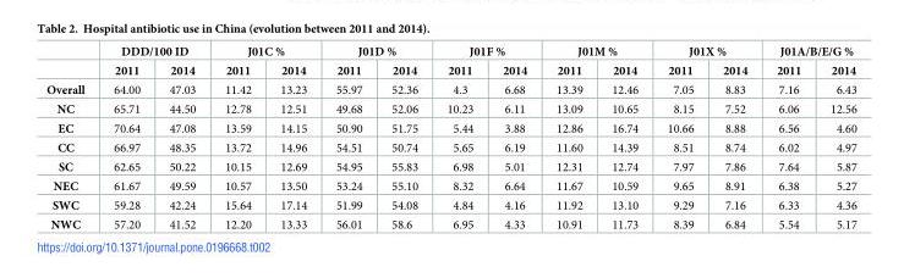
<table><thead><tr><td rowspan="2"></td><td colspan="2">DDD/100 ID</td><td colspan="2">J01C %</td><td colspan="2">J01D %</td><td colspan="2">J01F %</td><td colspan="2">J01M %</td><td colspan="2">J01X %</td><td colspan="2">J01A/B/E/G %</td></tr><tr><td>2011</td><td>2014</td><td>2011</td><td>2014</td><td>2011</td><td>2014</td><td>2011</td><td>2014</td><td>2011</td><td>2014</td><td>2011</td><td>2014</td><td>2011</td><td>2014</td></tr></thead><tbody><tr><td>Overall</td><td>64.00</td><td>47.03</td><td>11.42</td><td>13.23</td><td>55.97</td><td>52.36</td><td>4.3</td><td>6.68</td><td>13.39</td><td>12.46</td><td>7.05</td><td>8.83</td><td>7.16</td><td>6.43</td></tr><tr><td>NC</td><td>65.71</td><td>44.50</td><td>12.78</td><td>12.51</td><td>49.68</td><td>52.06</td><td>10.23</td><td>6.11</td><td>13.09</td><td>10.65</td><td>8.15</td><td>7.52</td><td>6.06</td><td>12.56</td></tr><tr><td>EC</td><td>70.64</td><td>47.08</td><td>13.59</td><td>14.15</td><td>50.90</td><td>51.75</td><td>5.44</td><td>3.88</td><td>12.86</td><td>16.74</td><td>10.66</td><td>8.88</td><td>6.56</td><td>4.60</td></tr><tr><td>CC</td><td>66.97</td><td>48.35</td><td>13.72</td><td>14.96</td><td>54.51</td><td>50.74</td><td>5.65</td><td>6.19</td><td>11.60</td><td>14.39</td><td>8.51</td><td>8.74</td><td>6.02</td><td>4.97</td></tr><tr><td>SC</td><td>62.65</td><td>50.22</td><td>10.15</td><td>12.69</td><td>54.95</td><td>55.83</td><td>6.98</td><td>5.01</td><td>12.31</td><td>12.74</td><td>7.97</td><td>7.86</td><td>7.64</td><td>5.87</td></tr><tr><td>NEC</td><td>61.67</td><td>49.59</td><td>10.57</td><td>13.50</td><td>53.24</td><td>55.10</td><td>8.32</td><td>6.64</td><td>11.67</td><td>10.59</td><td>9.65</td><td>8.91</td><td>6.38</td><td>5.27</td></tr><tr><td>SWC</td><td>59.28</td><td>42.24</td><td>15.64</td><td>17.14</td><td>51.99</td><td>54.08</td><td>4.84</td><td>4.16</td><td>11.92</td><td>13.10</td><td>9.29</td><td>7.16</td><td>6.33</td><td>4.36</td></tr><tr><td>NWC</td><td>57.20</td><td>41.52</td><td>12.20</td><td>13.33</td><td>56.01</td><td>58.6</td><td>6.95</td><td>4.33</td><td>10.91</td><td>11.73</td><td>8.39</td><td>6.84</td><td>5.54</td><td>5.17</td></tr></tbody></table>